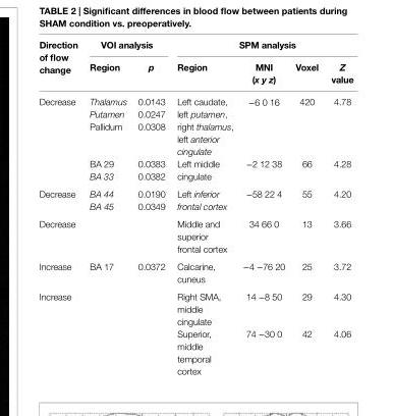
<table><thead><tr><td rowspan="2">Direction of flow change</td><td colspan="2">VOi analysis</td><td colspan="4">sPM analysis</td></tr><tr><td>region</td><td>p</td><td>region</td><td>Mni (x y z)</td><td>Voxel</td><td>Z value</td></tr></thead><tbody><tr><td rowspan="5">Decrease</td><td>Thalamus</td><td>0.0143</td><td rowspan="3">Left caudate, left putamen, right thalamus, left anterior cingulate</td><td rowspan="3">−6 0 16</td><td rowspan="3">420</td><td rowspan="3">4.78</td></tr><tr><td>Putamen</td><td>0.0247</td></tr><tr><td>Pallidum</td><td>0.0308</td></tr><tr><td>BA 29</td><td>0.0383</td><td rowspan="2">Left middle cingulate</td><td rowspan="2">−2 12 38</td><td rowspan="2">66</td><td rowspan="2">4.28</td></tr><tr><td>BA 33</td><td>0.0382</td></tr><tr><td rowspan="2">Decrease</td><td>BA 44</td><td>0.0190</td><td rowspan="2">Left inferior frontal cortex</td><td rowspan="2">−58 22 4</td><td rowspan="2">55</td><td rowspan="2">4.20</td></tr><tr><td>BA 45</td><td>0.0349</td></tr><tr><td>Decrease</td><td></td><td></td><td>Middle and superior frontal cortex</td><td>34 66 0</td><td>13</td><td>3.66</td></tr><tr><td>Increase</td><td>BA 17</td><td>0.0372</td><td>Calcarine, cuneus</td><td>−4 −76 20</td><td>25</td><td>3.72</td></tr><tr><td rowspan="2">Increase</td><td rowspan="2"></td><td rowspan="2"></td><td>Right SMA, middle cingulate</td><td>14 −8 50</td><td>29</td><td>4.30</td></tr><tr><td>Superior, middle temporal cortex</td><td>74 −30 0</td><td>42</td><td>4.06</td></tr></tbody></table>